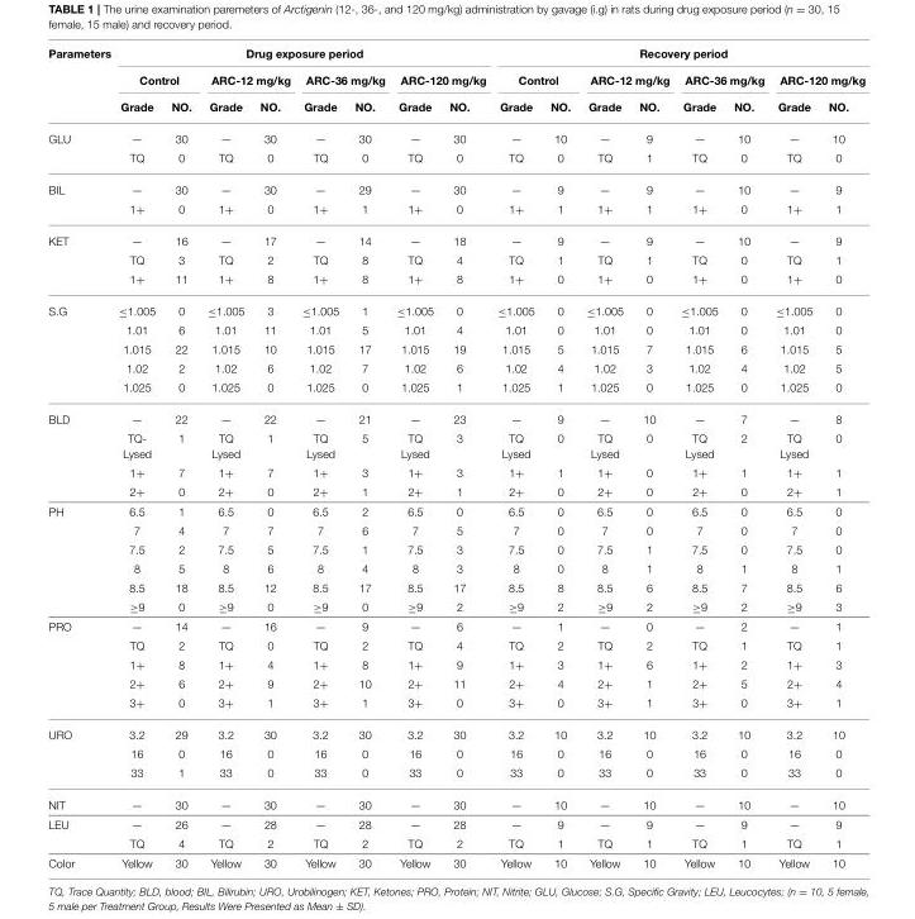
<table><thead><tr><td rowspan="3">Parameters</td><td colspan="8">Drug exposure period</td><td colspan="8">Recovery period</td></tr><tr><td colspan="2">Control</td><td colspan="2">ARC-12 mg/kg</td><td colspan="2">ARC-36 mg/kg</td><td colspan="2">ARC-120 mg/kg</td><td colspan="2">Control</td><td colspan="2">ARC-12 mg/kg</td><td colspan="2">ARC-36 mg/kg</td><td colspan="2">ARC-120 mg/kg</td></tr><tr><td>Grade</td><td>NO.</td><td>Grade</td><td>NO.</td><td>Grade</td><td>NO.</td><td>Grade</td><td>NO.</td><td>Grade</td><td>NO.</td><td>Grade</td><td>NO.</td><td>Grade</td><td>NO.</td><td>Grade</td><td>NO.</td></tr></thead><tbody><tr><td rowspan="2">GLU</td><td>—</td><td>30</td><td>—</td><td>30</td><td>—</td><td>30</td><td>—</td><td>30</td><td>—</td><td>10</td><td>—</td><td>9</td><td>—</td><td>10</td><td>—</td><td>10</td></tr><tr><td>TQ</td><td>0</td><td>TQ</td><td>0</td><td>TQ</td><td>0</td><td>TQ</td><td>0</td><td>TQ</td><td>0</td><td>TQ</td><td>1</td><td>TQ</td><td>0</td><td>TQ</td><td>0</td></tr><tr><td rowspan="2">BIL</td><td>—</td><td>30</td><td>—</td><td>30</td><td>—</td><td>29</td><td>—</td><td>30</td><td>—</td><td>9</td><td>—</td><td>9</td><td>—</td><td>10</td><td>—</td><td>9</td></tr><tr><td>1+</td><td>0</td><td>1+</td><td>0</td><td>1+</td><td>1</td><td>1+</td><td>0</td><td>1+</td><td>1</td><td>1+</td><td>1</td><td>1+</td><td>0</td><td>1+</td><td>1</td></tr><tr><td rowspan="3">KET</td><td>—</td><td>16</td><td>—</td><td>17</td><td>—</td><td>14</td><td>—</td><td>18</td><td>—</td><td>9</td><td>—</td><td>9</td><td>—</td><td>10</td><td>—</td><td>9</td></tr><tr><td>TQ</td><td>3</td><td>TQ</td><td>2</td><td>TQ</td><td>8</td><td>TQ</td><td>4</td><td>TQ</td><td>1</td><td>TQ</td><td>1</td><td>TQ</td><td>0</td><td>TQ</td><td>1</td></tr><tr><td>1+</td><td>11</td><td>1+</td><td>8</td><td>1+</td><td>8</td><td>1+</td><td>8</td><td>1+</td><td>0</td><td>1+</td><td>0</td><td>1+</td><td>0</td><td>1+</td><td>0</td></tr><tr><td rowspan="5">S.G</td><td>≤1.005</td><td>0</td><td>≤1.005</td><td>3</td><td>≤1.005</td><td>1</td><td>≤1.005</td><td>0</td><td>≤1.005</td><td>0</td><td>≤1.005</td><td>0</td><td>≤1.005</td><td>0</td><td>≤1.005</td><td>0</td></tr><tr><td>1.01</td><td>6</td><td>1.01</td><td>11</td><td>1.01</td><td>5</td><td>1.01</td><td>4</td><td>1.01</td><td>0</td><td>1.01</td><td>0</td><td>1.01</td><td>0</td><td>1.01</td><td>0</td></tr><tr><td>1.015</td><td>22</td><td>1.015</td><td>10</td><td>1.015</td><td>17</td><td>1.015</td><td>19</td><td>1.015</td><td>5</td><td>1.015</td><td>7</td><td>1.015</td><td>6</td><td>1.015</td><td>5</td></tr><tr><td>1.02</td><td>2</td><td>1.02</td><td>6</td><td>1.02</td><td>7</td><td>1.02</td><td>6</td><td>1.02</td><td>4</td><td>1.02</td><td>3</td><td>1.02</td><td>4</td><td>1.02</td><td>5</td></tr><tr><td>1.025</td><td>0</td><td>1.025</td><td>0</td><td>1.025</td><td>0</td><td>1.025</td><td>1</td><td>1.025</td><td>1</td><td>1.025</td><td>0</td><td>1.025</td><td>0</td><td>1.025</td><td>0</td></tr><tr><td rowspan="4">BLD</td><td>—</td><td>22</td><td>—</td><td>22</td><td>—</td><td>21</td><td>—</td><td>23</td><td>—</td><td>9</td><td>—</td><td>10</td><td>—</td><td>7</td><td>—</td><td>8</td></tr><tr><td>TQ- Lysed</td><td>1</td><td>TQ Lysed</td><td>1</td><td>TQ Lysed</td><td>5</td><td>TQ Lysed</td><td>3</td><td>TQ Lysed</td><td>0</td><td>TQ Lysed</td><td>0</td><td>TQ Lysed</td><td>2</td><td>TQ Lysed</td><td>0</td></tr><tr><td>1+</td><td>7</td><td>1+</td><td>7</td><td>1+</td><td>3</td><td>1+</td><td>3</td><td>1+</td><td>1</td><td>1+</td><td>0</td><td>1+</td><td>1</td><td>1+</td><td>1</td></tr><tr><td>2+</td><td>0</td><td>2+</td><td>0</td><td>2+</td><td>1</td><td>2+</td><td>1</td><td>2+</td><td>0</td><td>2+</td><td>0</td><td>2+</td><td>0</td><td>2+</td><td>1</td></tr><tr><td rowspan="6">PH</td><td>6.5</td><td>1</td><td>6.5</td><td>0</td><td>6.5</td><td>2</td><td>6.5</td><td>0</td><td>6.5</td><td>0</td><td>6.5</td><td>0</td><td>6.5</td><td>0</td><td>6.5</td><td>0</td></tr><tr><td>7</td><td>4</td><td>7</td><td>7</td><td>7</td><td>6</td><td>7</td><td>5</td><td>7</td><td>0</td><td>7</td><td>0</td><td>7</td><td>0</td><td>7</td><td>0</td></tr><tr><td>7.5</td><td>2</td><td>7.5</td><td>5</td><td>7.5</td><td>1</td><td>7.5</td><td>3</td><td>7.5</td><td>0</td><td>7.5</td><td>1</td><td>7.5</td><td>0</td><td>7.5</td><td>0</td></tr><tr><td>8</td><td>5</td><td>8</td><td>6</td><td>8</td><td>4</td><td>8</td><td>3</td><td>8</td><td>0</td><td>8</td><td>1</td><td>8</td><td>1</td><td>8</td><td>1</td></tr><tr><td>8.5</td><td>18</td><td>8.5</td><td>12</td><td>8.5</td><td>17</td><td>8.5</td><td>17</td><td>8.5</td><td>8</td><td>8.5</td><td>6</td><td>8.5</td><td>7</td><td>8.5</td><td>6</td></tr><tr><td>≥9</td><td>0</td><td>≥9</td><td>0</td><td>≥9</td><td>0</td><td>≥9</td><td>2</td><td>≥9</td><td>2</td><td>≥9</td><td>2</td><td>≥9</td><td>2</td><td>≥9</td><td>3</td></tr><tr><td rowspan="5">PRO</td><td>—</td><td>14</td><td>—</td><td>16</td><td>—</td><td>9</td><td>—</td><td>6</td><td>—</td><td>1</td><td>—</td><td>0</td><td>—</td><td>2</td><td>—</td><td>1</td></tr><tr><td>TQ</td><td>2</td><td>TQ</td><td>0</td><td>TQ</td><td>2</td><td>TQ</td><td>4</td><td>TQ</td><td>2</td><td>TQ</td><td>2</td><td>TQ</td><td>1</td><td>TQ</td><td>1</td></tr><tr><td>1+</td><td>8</td><td>1+</td><td>4</td><td>1+</td><td>8</td><td>1+</td><td>9</td><td>1+</td><td>3</td><td>1+</td><td>6</td><td>1+</td><td>2</td><td>1+</td><td>3</td></tr><tr><td>2+</td><td>6</td><td>2+</td><td>9</td><td>2+</td><td>10</td><td>2+</td><td>11</td><td>2+</td><td>4</td><td>2+</td><td>1</td><td>2+</td><td>5</td><td>2+</td><td>4</td></tr><tr><td>3+</td><td>0</td><td>3+</td><td>1</td><td>3+</td><td>1</td><td>3+</td><td>0</td><td>3+</td><td>0</td><td>3+</td><td>1</td><td>3+</td><td>0</td><td>3+</td><td>1</td></tr><tr><td rowspan="3">URO</td><td>3.2</td><td>29</td><td>3.2</td><td>30</td><td>3.2</td><td>30</td><td>3.2</td><td>30</td><td>3.2</td><td>10</td><td>3.2</td><td>10</td><td>3.2</td><td>10</td><td>3.2</td><td>10</td></tr><tr><td>16</td><td>0</td><td>16</td><td>0</td><td>16</td><td>0</td><td>16</td><td>0</td><td>16</td><td>0</td><td>16</td><td>0</td><td>16</td><td>0</td><td>16</td><td>0</td></tr><tr><td>33</td><td>1</td><td>33</td><td>0</td><td>33</td><td>0</td><td>33</td><td>0</td><td>33</td><td>0</td><td>33</td><td>0</td><td>33</td><td>0</td><td>33</td><td>0</td></tr><tr><td>NIT</td><td>—</td><td>30</td><td>—</td><td>30</td><td>—</td><td>30</td><td>—</td><td>30</td><td>—</td><td>10</td><td>—</td><td>10</td><td>—</td><td>10</td><td>—</td><td>10</td></tr><tr><td rowspan="2">LEU</td><td>—</td><td>26</td><td>—</td><td>28</td><td>—</td><td>28</td><td>—</td><td>28</td><td>—</td><td>9</td><td>—</td><td>9</td><td>—</td><td>9</td><td>—</td><td>9</td></tr><tr><td>TQ</td><td>4</td><td>TQ</td><td>2</td><td>TQ</td><td>2</td><td>TQ</td><td>2</td><td>TQ</td><td>1</td><td>TQ</td><td>1</td><td>TQ</td><td>1</td><td>TQ</td><td>1</td></tr><tr><td>Color</td><td>Yellow</td><td>30</td><td>Yellow</td><td>30</td><td>Yellow</td><td>30</td><td>Yellow</td><td>30</td><td>Yellow</td><td>10</td><td>Yellow</td><td>10</td><td>Yellow</td><td>10</td><td>Yellow</td><td>10</td></tr></tbody></table>